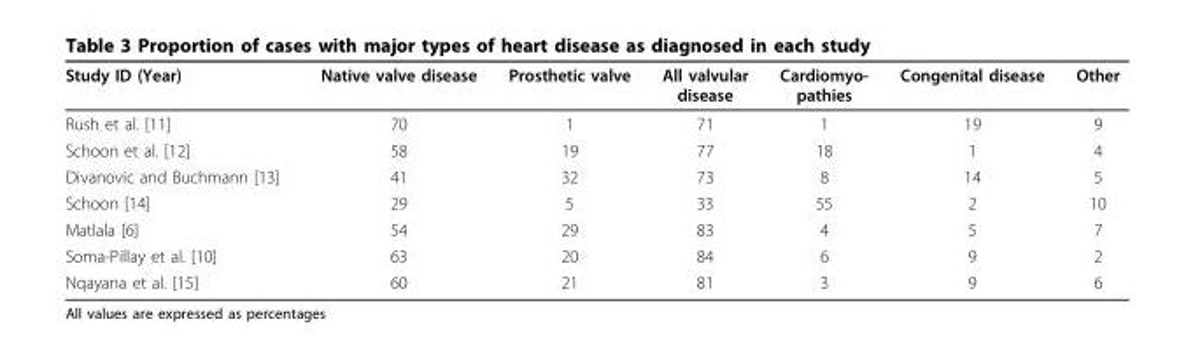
<table><thead><tr><td>Study ID (Year)</td><td>Native valve disease</td><td>Prosthetic valve</td><td>All valvular disease</td><td>Cardiomyo- pathies</td><td>Congenital disease</td><td>Other</td></tr></thead><tbody><tr><td>Rush et al. [11]</td><td>70</td><td>1</td><td>71</td><td>1</td><td>19</td><td>9</td></tr><tr><td>Schoon et al. [12]</td><td>58</td><td>19</td><td>77</td><td>18</td><td>1</td><td>4</td></tr><tr><td>Divanovic and Buchmann [13]</td><td>41</td><td>32</td><td>73</td><td>8</td><td>14</td><td>5</td></tr><tr><td>Schoon [14]</td><td>29</td><td>5</td><td>33</td><td>55</td><td>2</td><td>10</td></tr><tr><td>Matlala [6]</td><td>54</td><td>29</td><td>83</td><td>4</td><td>5</td><td>7</td></tr><tr><td>Soma-Pillay et al. [10]</td><td>63</td><td>20</td><td>84</td><td>6</td><td>9</td><td>2</td></tr><tr><td>Nqayana et al. [15]</td><td>60</td><td>21</td><td>81</td><td>3</td><td>9</td><td>6</td></tr></tbody></table>